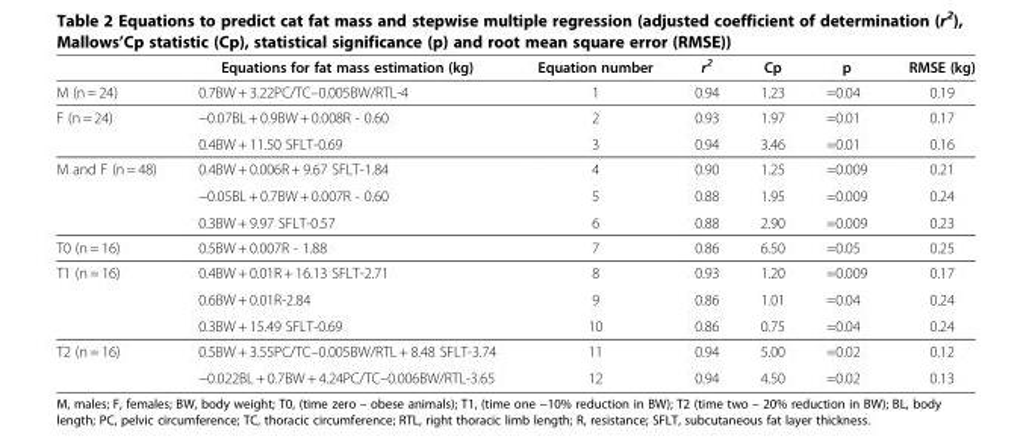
<table><thead><tr><td></td><td>Equations for fat mass estimation (kg)</td><td>Equation number</td><td>r<sup>2</sup></td><td>Cp</td><td>p</td><td>RMSE (kg)</td></tr></thead><tbody><tr><td>M (n = 24)</td><td>0.7BW + 3.22PC/TC–0.005BW/RTL-4</td><td>1</td><td>0.94</td><td>1.23</td><td>=0.04</td><td>0.19</td></tr><tr><td rowspan="2">F (n = 24)</td><td>−0.07BL + 0.9BW + 0.008R - 0.60</td><td>2</td><td>0.93</td><td>1.97</td><td>=0.01</td><td>0.17</td></tr><tr><td>0.4BW + 11.50 SFLT-0.69</td><td>3</td><td>0.94</td><td>3.46</td><td>=0.01</td><td>0.16</td></tr><tr><td rowspan="3">M and F (n = 48)</td><td>0.4BW + 0.006R + 9.67 SFLT-1.84</td><td>4</td><td>0.90</td><td>1.25</td><td>=0.009</td><td>0.21</td></tr><tr><td>−0.05BL + 0.7BW + 0.007R - 0.60</td><td>5</td><td>0.88</td><td>1.95</td><td>=0.009</td><td>0.24</td></tr><tr><td>0.3BW + 9.97 SFLT-0.57</td><td>6</td><td>0.88</td><td>2.90</td><td>=0.009</td><td>0.23</td></tr><tr><td>T0 (n = 16)</td><td>0.5BW + 0.007R - 1.88</td><td>7</td><td>0.86</td><td>6.50</td><td>=0.05</td><td>0.25</td></tr><tr><td rowspan="3">T1 (n = 16)</td><td>0.4BW + 0.01R + 16.13 SFLT-2.71</td><td>8</td><td>0.93</td><td>1.20</td><td>=0.009</td><td>0.17</td></tr><tr><td>0.6BW + 0.01R-2.84</td><td>9</td><td>0.86</td><td>1.01</td><td>=0.04</td><td>0.24</td></tr><tr><td>0.3BW + 15.49 SFLT-0.69</td><td>10</td><td>0.86</td><td>0.75</td><td>=0.04</td><td>0.24</td></tr><tr><td rowspan="2">T2 (n = 16)</td><td>0.5BW + 3.55PC/TC–0.005BW/RTL + 8.48 SFLT-3.74</td><td>11</td><td>0.94</td><td>5.00</td><td>=0.02</td><td>0.12</td></tr><tr><td>−0.022BL + 0.7BW + 4.24PC/TC–0.006BW/RTL-3.65</td><td>12</td><td>0.94</td><td>4.50</td><td>=0.02</td><td>0.13</td></tr></tbody></table>